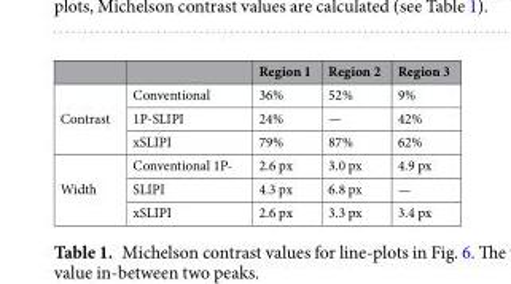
<table><thead><tr><td></td><td></td><td>Region 1</td><td>Region 2</td><td>Region 3</td></tr></thead><tbody><tr><td rowspan="3">Contrast</td><td>Conventional</td><td>36%</td><td>52%</td><td>9%</td></tr><tr><td>1P-SLIPI</td><td>24%</td><td>—</td><td>42%</td></tr><tr><td>xSLIPI</td><td>79%</td><td>87%</td><td>62%</td></tr><tr><td rowspan="3">Width</td><td>Conventional 1P-</td><td>2.6 px</td><td>3.0 px</td><td>4.9 px</td></tr><tr><td>SLIPI</td><td>4.3 px</td><td>6.8 px</td><td>—</td></tr><tr><td>xSLIPI</td><td>2.6 px</td><td>3.3 px</td><td>3.4 px</td></tr></tbody></table>